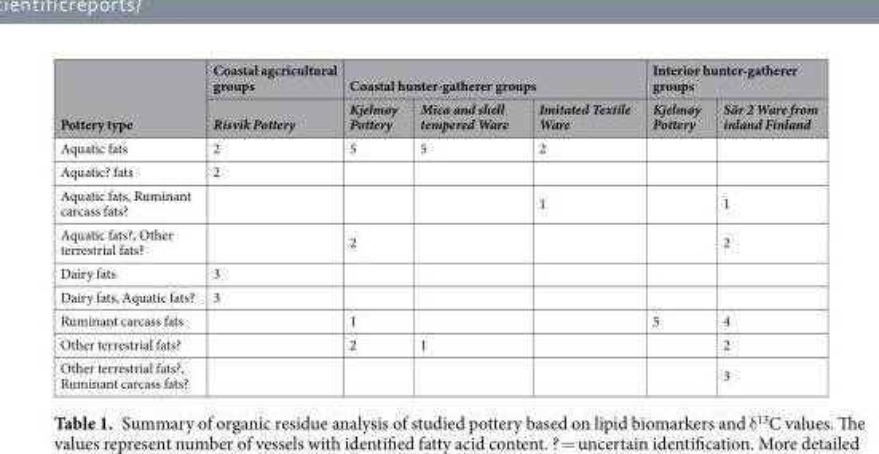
<table><thead><tr><td rowspan="2">Pottery type</td><td rowspan="2">Coastal agcricultural groups Risvik Pottery</td><td colspan="3">Coastal hunter-gatherer groups</td><td colspan="2">Interior hunter-gatherer groups</td></tr><tr><td>Kjelmøy Pottery</td><td>Mica and shell tempered Ware</td><td>Imitated Textile Ware</td><td>Kjelmøy Pottery</td><td>Sär 2 Ware from inland Finland</td></tr></thead><tbody><tr><td>Aquatic fats</td><td>2</td><td>5</td><td>5</td><td>2</td><td></td><td></td></tr><tr><td>Aquatic? fats</td><td>2</td><td></td><td></td><td></td><td></td><td></td></tr><tr><td>Aquatic fats, Ruminant carcass fats?</td><td></td><td></td><td></td><td>1</td><td></td><td>1</td></tr><tr><td>Aquatic fats?, Other terrestrial fats?</td><td></td><td>2</td><td></td><td></td><td></td><td>2</td></tr><tr><td>Dairy fats</td><td>3</td><td></td><td></td><td></td><td></td><td></td></tr><tr><td>Dairy fats, Aquatic fats?</td><td>3</td><td></td><td></td><td></td><td></td><td></td></tr><tr><td>Ruminant carcass fats</td><td></td><td>1</td><td></td><td></td><td>5</td><td>4</td></tr><tr><td>Other terrestrial fats?</td><td></td><td>2</td><td>1</td><td></td><td></td><td>2</td></tr><tr><td>Other terrestrial fats?, Ruminant carcass fats?</td><td></td><td></td><td></td><td></td><td></td><td>3</td></tr></tbody></table>